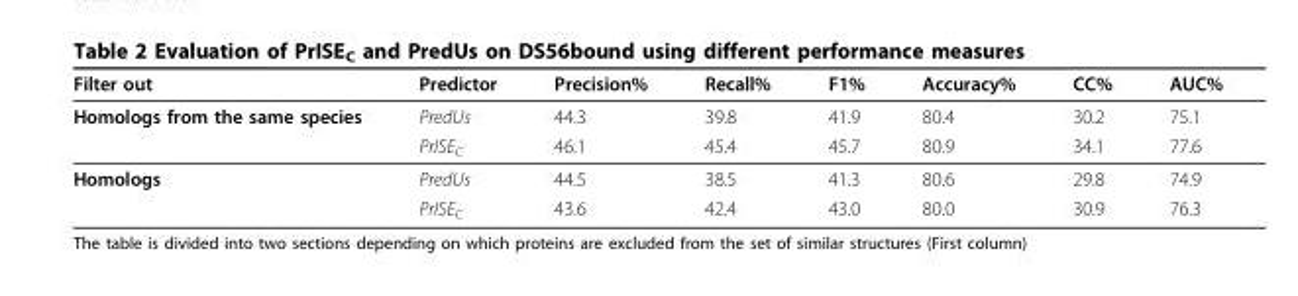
<table><thead><tr><td>Filter out</td><td>Predictor</td><td>Precision%</td><td>Recall%</td><td>F1%</td><td>Accuracy%</td><td>CC%</td><td>AUC%</td></tr></thead><tbody><tr><td rowspan="2">Homologs from the same species</td><td>PredUs</td><td>44.3</td><td>39.8</td><td>41.9</td><td>80.4</td><td>30.2</td><td>75.1</td></tr><tr><td>PrISE<sub>C</sub></td><td>46.1</td><td>45.4</td><td>45.7</td><td>80.9</td><td>34.1</td><td>77.6</td></tr><tr><td rowspan="2">Homologs</td><td>PredUs</td><td>44.5</td><td>38.5</td><td>41.3</td><td>80.6</td><td>29.8</td><td>74.9</td></tr><tr><td>PrISE<sub>C</sub></td><td>43.6</td><td>42.4</td><td>43.0</td><td>80.0</td><td>30.9</td><td>76.3</td></tr></tbody></table>